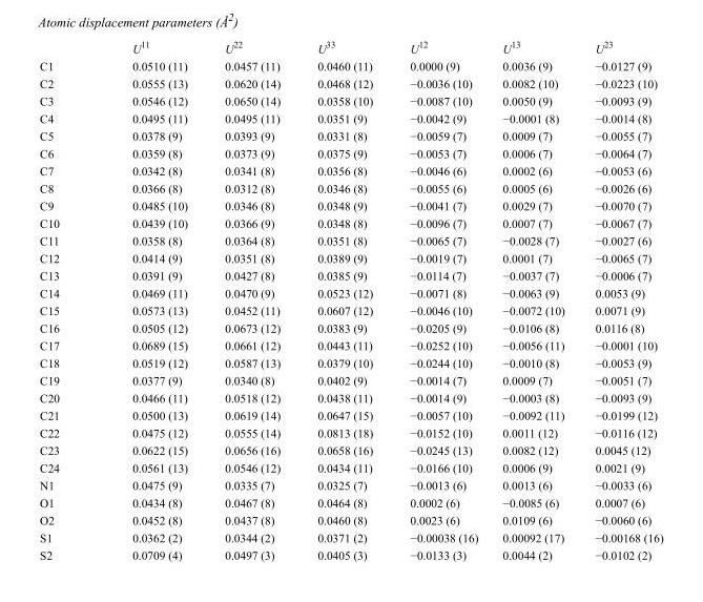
<table><thead><tr><td></td><td>U<sup>11</sup></td><td>U<sup>22</sup></td><td>U<sup>33</sup></td><td>U<sup>12</sup></td><td>U<sup>13</sup></td><td>U<sup>23</sup></td></tr></thead><tbody><tr><td>C1</td><td>0.0510 (11)</td><td>0.0457 (11)</td><td>0.0460 (11)</td><td>0.0000 (9)</td><td>0.0036 (9)</td><td>−0.0127 (9)</td></tr><tr><td>C2</td><td>0.0555 (13)</td><td>0.0620 (14)</td><td>0.0468 (12)</td><td>−0.0036 (10)</td><td>0.0082 (10)</td><td>−0.0223 (10)</td></tr><tr><td>C3</td><td>0.0546 (12)</td><td>0.0650 (14)</td><td>0.0358 (10)</td><td>−0.0087 (10)</td><td>0.0050 (9)</td><td>−0.0093 (9)</td></tr><tr><td>C4</td><td>0.0495 (11)</td><td>0.0495 (11)</td><td>0.0351 (9)</td><td>−0.0042 (9)</td><td>−0.0001 (8)</td><td>−0.0014 (8)</td></tr><tr><td>C5</td><td>0.0378 (9)</td><td>0.0393 (9)</td><td>0.0331 (8)</td><td>−0.0059 (7)</td><td>0.0009 (7)</td><td>−0.0055 (7)</td></tr><tr><td>C6</td><td>0.0359 (8)</td><td>0.0373 (9)</td><td>0.0375 (9)</td><td>−0.0053 (7)</td><td>0.0006 (7)</td><td>−0.0064 (7)</td></tr><tr><td>C7</td><td>0.0342 (8)</td><td>0.0341 (8)</td><td>0.0356 (8)</td><td>−0.0046 (6)</td><td>0.0002 (6)</td><td>−0.0053 (6)</td></tr><tr><td>C8</td><td>0.0366 (8)</td><td>0.0312 (8)</td><td>0.0346 (8)</td><td>−0.0055 (6)</td><td>0.0005 (6)</td><td>−0.0026 (6)</td></tr><tr><td>C9</td><td>0.0485 (10)</td><td>0.0346 (8)</td><td>0.0348 (9)</td><td>−0.0041 (7)</td><td>0.0029 (7)</td><td>−0.0070 (7)</td></tr><tr><td>C10</td><td>0.0439 (10)</td><td>0.0366 (9)</td><td>0.0348 (8)</td><td>−0.0096 (7)</td><td>0.0007 (7)</td><td>−0.0067 (7)</td></tr><tr><td>C11</td><td>0.0358 (8)</td><td>0.0364 (8)</td><td>0.0351 (8)</td><td>−0.0065 (7)</td><td>−0.0028 (7)</td><td>−0.0027 (6)</td></tr><tr><td>C12</td><td>0.0414 (9)</td><td>0.0351 (8)</td><td>0.0389 (9)</td><td>−0.0019 (7)</td><td>0.0001 (7)</td><td>−0.0065 (7)</td></tr><tr><td>C13</td><td>0.0391 (9)</td><td>0.0427 (8)</td><td>0.0385 (9)</td><td>−0.0114 (7)</td><td>−0.0037 (7)</td><td>−0.0006 (7)</td></tr><tr><td>C14</td><td>0.0469 (11)</td><td>0.0470 (9)</td><td>0.0523 (12)</td><td>−0.0071 (8)</td><td>−0.0063 (9)</td><td>0.0053 (9)</td></tr><tr><td>C15</td><td>0.0573 (13)</td><td>0.0452 (11)</td><td>0.0607 (12)</td><td>−0.0046 (10)</td><td>−0.0072 (10)</td><td>0.0071 (9)</td></tr><tr><td>C16</td><td>0.0505 (12)</td><td>0.0673 (12)</td><td>0.0383 (9)</td><td>−0.0205 (9)</td><td>−0.0106 (8)</td><td>0.0116 (8)</td></tr><tr><td>C17</td><td>0.0689 (15)</td><td>0.0661 (12)</td><td>0.0443 (11)</td><td>−0.0252 (10)</td><td>−0.0056 (11)</td><td>−0.0001 (10)</td></tr><tr><td>C18</td><td>0.0519 (12)</td><td>0.0587 (13)</td><td>0.0379 (10)</td><td>−0.0244 (10)</td><td>−0.0010 (8)</td><td>−0.0053 (9)</td></tr><tr><td>C19</td><td>0.0377 (9)</td><td>0.0340 (8)</td><td>0.0402 (9)</td><td>−0.0014 (7)</td><td>0.0009 (7)</td><td>−0.0051 (7)</td></tr><tr><td>C20</td><td>0.0466 (11)</td><td>0.0518 (12)</td><td>0.0438 (11)</td><td>−0.0014 (9)</td><td>−0.0003 (8)</td><td>−0.0093 (9)</td></tr><tr><td>C21</td><td>0.0500 (13)</td><td>0.0619 (14)</td><td>0.0647 (15)</td><td>−0.0057 (10)</td><td>−0.0092 (11)</td><td>−0.0199 (12)</td></tr><tr><td>C22</td><td>0.0475 (12)</td><td>0.0555 (14)</td><td>0.0813 (18)</td><td>−0.0152 (10)</td><td>0.0011 (12)</td><td>−0.0116 (12)</td></tr><tr><td>C23</td><td>0.0622 (15)</td><td>0.0656 (16)</td><td>0.0658 (16)</td><td>−0.0245 (13)</td><td>0.0082 (12)</td><td>0.0045 (12)</td></tr><tr><td>C24</td><td>0.0561 (13)</td><td>0.0546 (12)</td><td>0.0434 (11)</td><td>−0.0166 (10)</td><td>0.0006 (9)</td><td>0.0021 (9)</td></tr><tr><td>N1</td><td>0.0475 (9)</td><td>0.0335 (7)</td><td>0.0325 (7)</td><td>−0.0013 (6)</td><td>0.0013 (6)</td><td>−0.0033 (6)</td></tr><tr><td>O1</td><td>0.0434 (8)</td><td>0.0467 (8)</td><td>0.0464 (8)</td><td>0.0002 (6)</td><td>−0.0085 (6)</td><td>0.0007 (6)</td></tr><tr><td>O2</td><td>0.0452 (8)</td><td>0.0437 (8)</td><td>0.0460 (8)</td><td>0.0023 (6)</td><td>0.0109 (6)</td><td>−0.0060 (6)</td></tr><tr><td>S1</td><td>0.0362 (2)</td><td>0.0344 (2)</td><td>0.0371 (2)</td><td>−0.00038 (16)</td><td>0.00092 (17)</td><td>−0.00168 (16)</td></tr><tr><td>S2</td><td>0.0709 (4)</td><td>0.0497 (3)</td><td>0.0405 (3)</td><td>−0.0133 (3)</td><td>0.0044 (2)</td><td>−0.0102 (2)</td></tr></tbody></table>